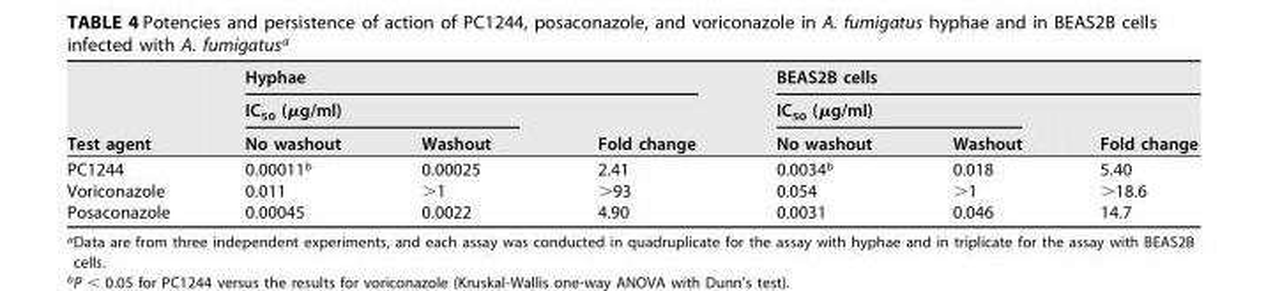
<table><thead><tr><td rowspan="3">Test agent</td><td colspan="3">Hyphae</td><td colspan="3">BEAS2B cells</td></tr><tr><td colspan="2">IC<sub>50</sub> (μg/ml)</td><td rowspan="2">Fold change</td><td colspan="2">IC<sub>50</sub> (μg/ml)</td><td rowspan="2">Fold change</td></tr><tr><td>No washout</td><td>Washout</td><td>No washout</td><td>Washout</td></tr></thead><tbody><tr><td>PC1244</td><td>0.00011<sup>b</sup></td><td>0.00025</td><td>2.41</td><td>0.0034<sup>b</sup></td><td>0.018</td><td>5.40</td></tr><tr><td>Voriconazole</td><td>0.011</td><td>&gt;1</td><td>&gt;93</td><td>0.054</td><td>&gt;1</td><td>&gt;18.6</td></tr><tr><td>Posaconazole</td><td>0.00045</td><td>0.0022</td><td>4.90</td><td>0.0031</td><td>0.046</td><td>14.7</td></tr></tbody></table>